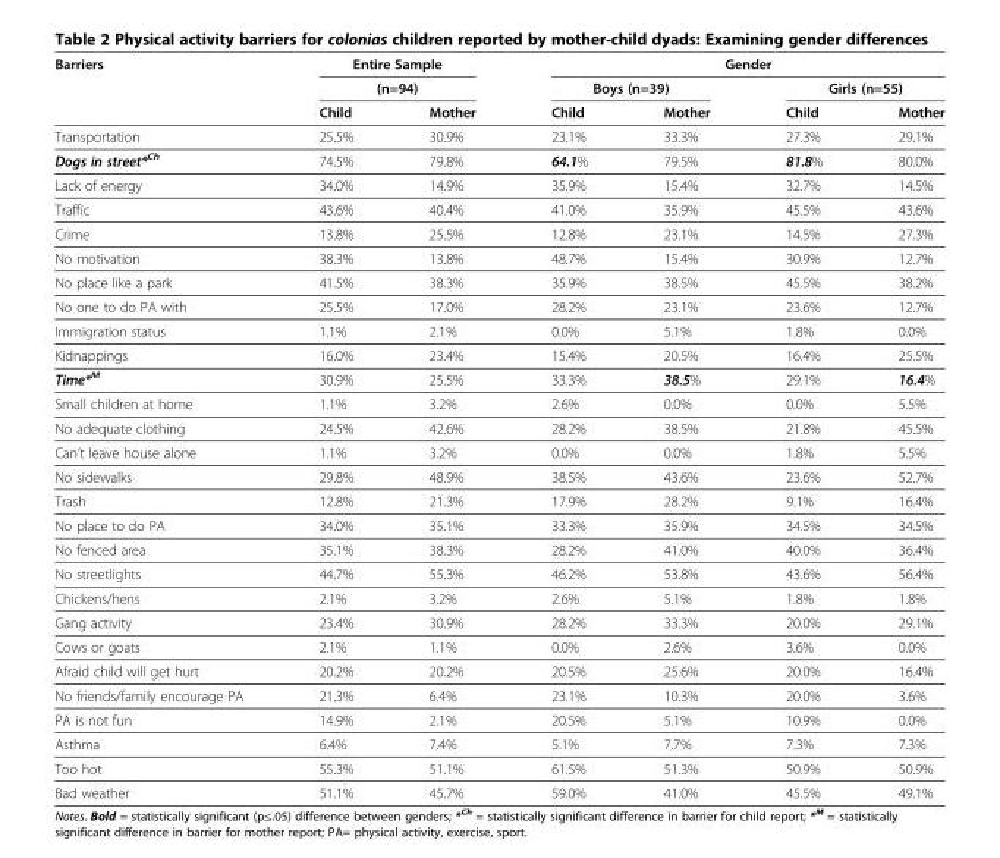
<table><thead><tr><td rowspan="3">Barriers</td><td rowspan="2" colspan="2">Entire Sample (n=94)</td><td colspan="4">Gender</td></tr><tr><td colspan="2">Boys (n=39)</td><td colspan="2">Girls (n=55)</td></tr><tr><td>Child</td><td>Mother</td><td>Child</td><td>Mother</td><td>Child</td><td>Mother</td></tr></thead><tbody><tr><td>Transportation</td><td>25.5%</td><td>30.9%</td><td>23.1%</td><td>33.3%</td><td>27.3%</td><td>29.1%</td></tr><tr><td>Dogs in street*<sup>Ch</sup></td><td>74.5%</td><td>79.8%</td><td>64.1%</td><td>79.5%</td><td>81.8%</td><td>80.0%</td></tr><tr><td>Lack of energy</td><td>34.0%</td><td>14.9%</td><td>35.9%</td><td>15.4%</td><td>32.7%</td><td>14.5%</td></tr><tr><td>Traffic</td><td>43.6%</td><td>40.4%</td><td>41.0%</td><td>35.9%</td><td>45.5%</td><td>43.6%</td></tr><tr><td>Crime</td><td>13.8%</td><td>25.5%</td><td>12.8%</td><td>23.1%</td><td>14.5%</td><td>27.3%</td></tr><tr><td>No motivation</td><td>38.3%</td><td>13.8%</td><td>48.7%</td><td>15.4%</td><td>30.9%</td><td>12.7%</td></tr><tr><td>No place like a park</td><td>41.5%</td><td>38.3%</td><td>35.9%</td><td>38.5%</td><td>45.5%</td><td>38.2%</td></tr><tr><td>No one to do PA with</td><td>25.5%</td><td>17.0%</td><td>28.2%</td><td>23.1%</td><td>23.6%</td><td>12.7%</td></tr><tr><td>Immigration status</td><td>1.1%</td><td>2.1%</td><td>0.0%</td><td>5.1%</td><td>1.8%</td><td>0.0%</td></tr><tr><td>Kidnappings</td><td>16.0%</td><td>23.4%</td><td>15.4%</td><td>20.5%</td><td>16.4%</td><td>25.5%</td></tr><tr><td>Time*<sup>M</sup></td><td>30.9%</td><td>25.5%</td><td>33.3%</td><td>38.5%</td><td>29.1%</td><td>16.4%</td></tr><tr><td>Small children at home</td><td>1.1%</td><td>3.2%</td><td>2.6%</td><td>0.0%</td><td>0.0%</td><td>5.5%</td></tr><tr><td>No adequate clothing</td><td>24.5%</td><td>42.6%</td><td>28.2%</td><td>38.5%</td><td>21.8%</td><td>45.5%</td></tr><tr><td>Can’t leave house alone</td><td>1.1%</td><td>3.2%</td><td>0.0%</td><td>0.0%</td><td>1.8%</td><td>5.5%</td></tr><tr><td>No sidewalks</td><td>29.8%</td><td>48.9%</td><td>38.5%</td><td>43.6%</td><td>23.6%</td><td>52.7%</td></tr><tr><td>Trash</td><td>12.8%</td><td>21.3%</td><td>17.9%</td><td>28.2%</td><td>9.1%</td><td>16.4%</td></tr><tr><td>No place to do PA</td><td>34.0%</td><td>35.1%</td><td>33.3%</td><td>35.9%</td><td>34.5%</td><td>34.5%</td></tr><tr><td>No fenced area</td><td>35.1%</td><td>38.3%</td><td>28.2%</td><td>41.0%</td><td>40.0%</td><td>36.4%</td></tr><tr><td>No streetlights</td><td>44.7%</td><td>55.3%</td><td>46.2%</td><td>53.8%</td><td>43.6%</td><td>56.4%</td></tr><tr><td>Chickens/hens</td><td>2.1%</td><td>3.2%</td><td>2.6%</td><td>5.1%</td><td>1.8%</td><td>1.8%</td></tr><tr><td>Gang activity</td><td>23.4%</td><td>30.9%</td><td>28.2%</td><td>33.3%</td><td>20.0%</td><td>29.1%</td></tr><tr><td>Cows or goats</td><td>2.1%</td><td>1.1%</td><td>0.0%</td><td>2.6%</td><td>3.6%</td><td>0.0%</td></tr><tr><td>Afraid child will get hurt</td><td>20.2%</td><td>20.2%</td><td>20.5%</td><td>25.6%</td><td>20.0%</td><td>16.4%</td></tr><tr><td>No friends/family encourage PA</td><td>21.3%</td><td>6.4%</td><td>23.1%</td><td>10.3%</td><td>20.0%</td><td>3.6%</td></tr><tr><td>PA is not fun</td><td>14.9%</td><td>2.1%</td><td>20.5%</td><td>5.1%</td><td>10.9%</td><td>0.0%</td></tr><tr><td>Asthma</td><td>6.4%</td><td>7.4%</td><td>5.1%</td><td>7.7%</td><td>7.3%</td><td>7.3%</td></tr><tr><td>Too hot</td><td>55.3%</td><td>51.1%</td><td>61.5%</td><td>51.3%</td><td>50.9%</td><td>50.9%</td></tr><tr><td>Bad weather</td><td>51.1%</td><td>45.7%</td><td>59.0%</td><td>41.0%</td><td>45.5%</td><td>49.1%</td></tr></tbody></table>